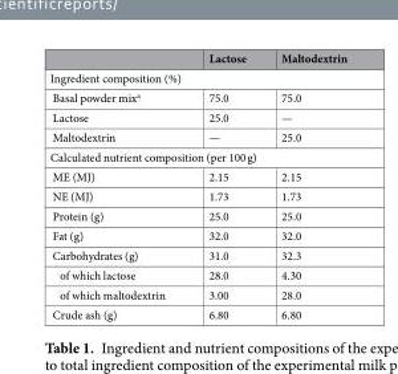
<table><thead><tr><td></td><td>Lactose</td><td>Maltodextrin</td></tr></thead><tbody><tr><td colspan="3">Ingredient composition (%)</td></tr><tr><td>Basal powder mix<sup>a</sup></td><td>75.0</td><td>75.0</td></tr><tr><td>Lactose</td><td>25.0</td><td>—</td></tr><tr><td>Maltodextrin</td><td>—</td><td>25.0</td></tr><tr><td colspan="3">Calculated nutrient composition (per 100 g)</td></tr><tr><td>ME (MJ)</td><td>2.15</td><td>2.15</td></tr><tr><td>NE (MJ)</td><td>1.73</td><td>1.73</td></tr><tr><td>Protein (g)</td><td>25.0</td><td>25.0</td></tr><tr><td>Fat (g)</td><td>32.0</td><td>32.0</td></tr><tr><td>Carbohydrates (g)</td><td>31.0</td><td>32.3</td></tr><tr><td>of which lactose</td><td>28.0</td><td>4.30</td></tr><tr><td>of which maltodextrin</td><td>3.00</td><td>28.0</td></tr><tr><td>Crude ash (g)</td><td>6.80</td><td>6.80</td></tr></tbody></table>